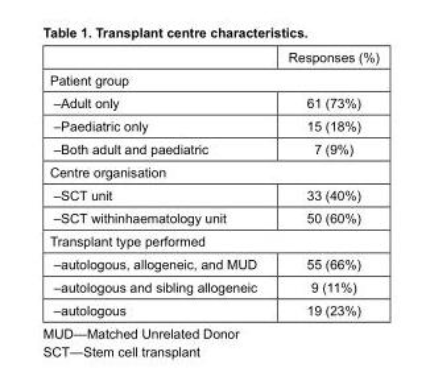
<table><thead><tr><td></td><td>Responses (%)</td></tr></thead><tbody><tr><td colspan="2">Patient group</td></tr><tr><td>–Adult only</td><td>61 (73%)</td></tr><tr><td>–Paediatric only</td><td>15 (18%)</td></tr><tr><td>–Both adult and paediatric</td><td>7 (9%)</td></tr><tr><td colspan="2">Centre organisation</td></tr><tr><td>–SCT unit</td><td>33 (40%)</td></tr><tr><td>–SCT withinhaematology unit</td><td>50 (60%)</td></tr><tr><td colspan="2">Transplant type performed</td></tr><tr><td>–autologous, allogeneic, and MUD</td><td>55 (66%)</td></tr><tr><td>–autologous and sibling allogeneic</td><td>9 (11%)</td></tr><tr><td>–autologous</td><td>19 (23%)</td></tr></tbody></table>